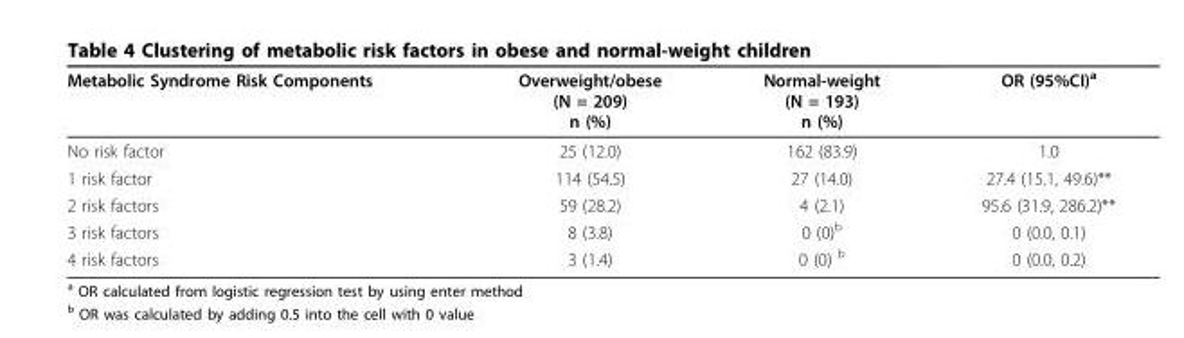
<table><thead><tr><td>Metabolic Syndrome Risk Components</td><td>Overweight/obese (N = 209) n (%)</td><td>Normal-weight (N = 193) n (%)</td><td>OR (95%CI)<sup>a</sup></td></tr></thead><tbody><tr><td>No risk factor</td><td>25 (12.0)</td><td>162 (83.9)</td><td>1.0</td></tr><tr><td>1 risk factor</td><td>114 (54.5)</td><td>27 (14.0)</td><td>27.4 (15.1, 49.6)**</td></tr><tr><td>2 risk factors</td><td>59 (28.2)</td><td>4 (2.1)</td><td>95.6 (31.9, 286.2)**</td></tr><tr><td>3 risk factors</td><td>8 (3.8)</td><td>0 (0)<sup>b</sup></td><td>0 (0.0, 0.1)</td></tr><tr><td>4 risk factors</td><td>3 (1.4)</td><td>0 (0) <sup>b</sup></td><td>0 (0.0, 0.2)</td></tr></tbody></table>